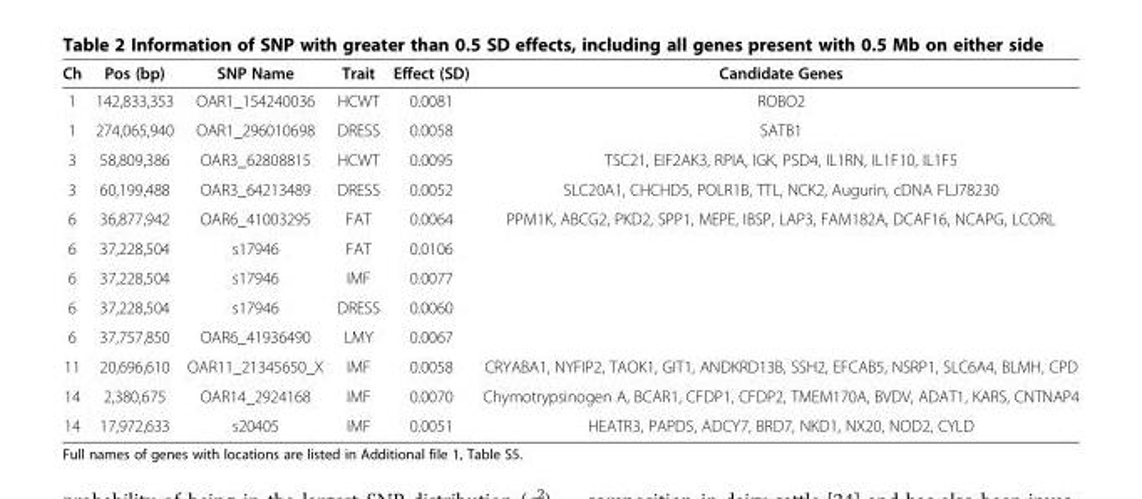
<table><thead><tr><td>Ch</td><td>Pos (bp)</td><td>SNP Name</td><td>Trait</td><td>Effect (SD)</td><td>Candidate Genes</td></tr></thead><tbody><tr><td>1</td><td>142,833,353</td><td>OAR1_154240036</td><td>HCWT</td><td>0.0081</td><td>ROBO2</td></tr><tr><td>1</td><td>274,065,940</td><td>OAR1_296010698</td><td>DRESS</td><td>0.0058</td><td>SATB1</td></tr><tr><td>3</td><td>58,809,386</td><td>OAR3_62808815</td><td>HCWT</td><td>0.0095</td><td>TSC21, EIF2AK3, RPIA, IGK, PSD4, IL1RN, IL1F10, IL1F5</td></tr><tr><td>3</td><td>60,199,488</td><td>OAR3_64213489</td><td>DRESS</td><td>0.0052</td><td>SLC20A1, CHCHD5, POLR1B, TTL, NCK2, Augurin, cDNA FLJ78230</td></tr><tr><td>6</td><td>36,877,942</td><td>OAR6_41003295</td><td>FAT</td><td>0.0064</td><td rowspan="5">PPM1K, ABCG2, PKD2, SPP1, MEPE, IBSP, LAP3, FAM182A, DCAF16, NCAPG, LCORL</td></tr><tr><td>6</td><td>37,228,504</td><td>s17946</td><td>FAT</td><td>0.0106</td></tr><tr><td>6</td><td>37,228,504</td><td>s17946</td><td>IMF</td><td>0.0077</td></tr><tr><td>6</td><td>37,228,504</td><td>s17946</td><td>DRESS</td><td>0.0060</td></tr><tr><td>6</td><td>37,757,850</td><td>OAR6_41936490</td><td>LMY</td><td>0.0067</td></tr><tr><td>11</td><td>20,696,610</td><td>OAR11_21345650_X</td><td>IMF</td><td>0.0058</td><td>CRYABA1, NYFIP2, TAOK1, GIT1, ANDKRD13B, SSH2, EFCAB5, NSRP1, SLC6A4, BLMH, CPD</td></tr><tr><td>14</td><td>2,380,675</td><td>OAR14_2924168</td><td>IMF</td><td>0.0070</td><td>Chymotrypsinogen A, BCAR1, CFDP1, CFDP2, TMEM170A, BVDV, ADAT1, KARS, CNTNAP4</td></tr><tr><td>14</td><td>17,972,633</td><td>s20405</td><td>IMF</td><td>0.0051</td><td>HEATR3, PAPD5, ADCY7, BRD7, NKD1, NX20, NOD2, CYLD</td></tr></tbody></table>